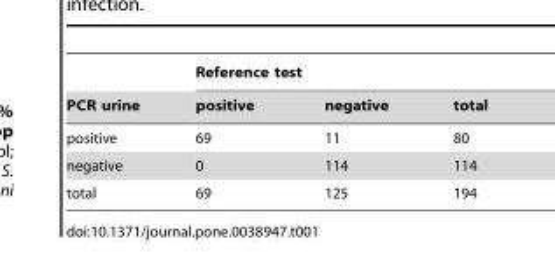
<table><thead><tr><td rowspan="2">PCR urine</td><td colspan="3">Reference test</td></tr><tr><td>positive</td><td>negative</td><td>total</td></tr></thead><tbody><tr><td>positive</td><td>69</td><td>11</td><td>80</td></tr><tr><td>negative</td><td>0</td><td>114</td><td>114</td></tr><tr><td>total</td><td>69</td><td>125</td><td>194</td></tr></tbody></table>